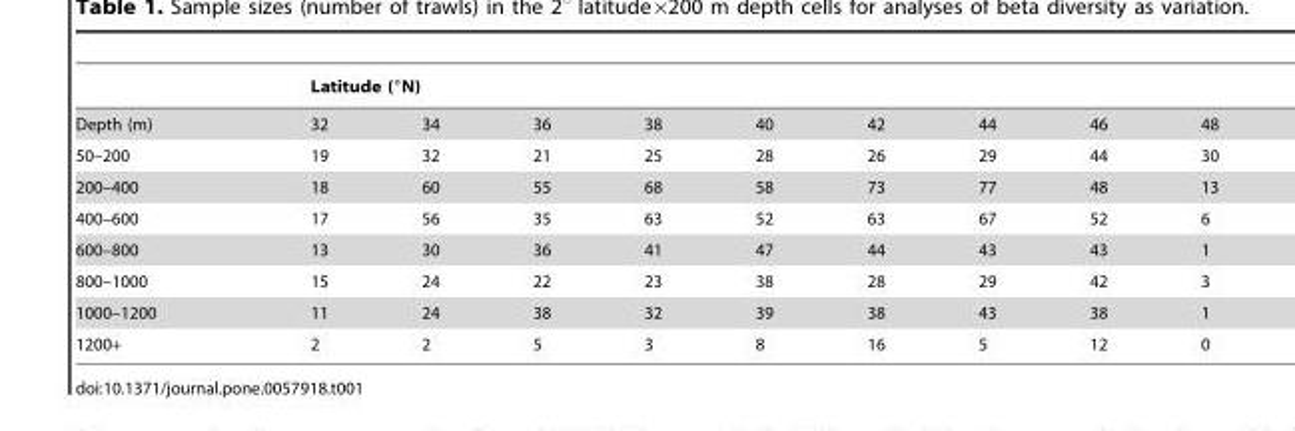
<table><thead><tr><td rowspan="2">Depth (m)</td><td colspan="9">Latitude (°N)</td></tr><tr><td>32</td><td>34</td><td>36</td><td>38</td><td>40</td><td>42</td><td>44</td><td>46</td><td>48</td></tr></thead><tbody><tr><td>50–200</td><td>19</td><td>32</td><td>21</td><td>25</td><td>28</td><td>26</td><td>29</td><td>44</td><td>30</td></tr><tr><td>200–400</td><td>18</td><td>60</td><td>55</td><td>68</td><td>58</td><td>73</td><td>77</td><td>48</td><td>13</td></tr><tr><td>400–600</td><td>17</td><td>56</td><td>35</td><td>63</td><td>52</td><td>63</td><td>67</td><td>52</td><td>6</td></tr><tr><td>600–800</td><td>13</td><td>30</td><td>36</td><td>41</td><td>47</td><td>44</td><td>43</td><td>43</td><td>1</td></tr><tr><td>800–1000</td><td>15</td><td>24</td><td>22</td><td>23</td><td>38</td><td>28</td><td>29</td><td>42</td><td>3</td></tr><tr><td>1000–1200</td><td>11</td><td>24</td><td>38</td><td>32</td><td>39</td><td>38</td><td>43</td><td>38</td><td>1</td></tr><tr><td>1200+</td><td>2</td><td>2</td><td>5</td><td>3</td><td>8</td><td>16</td><td>5</td><td>12</td><td>0</td></tr></tbody></table>